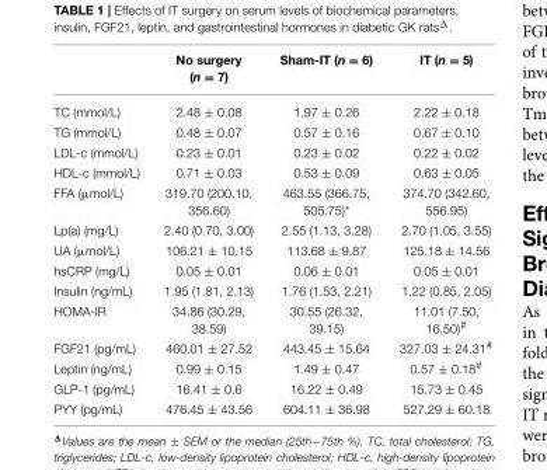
<table><thead><tr><td></td><td>No surgery (n = 7)</td><td>Sham-IT (n = 6)</td><td>IT (n = 5)</td></tr></thead><tbody><tr><td>TC (mmol/L)</td><td>2.48 ± 0.08</td><td>1.97 ± 0.26</td><td>2.22 ± 0.18</td></tr><tr><td>TG (mmol/L)</td><td>0.48 ± 0.07</td><td>0.57 ± 0.16</td><td>0.67 ± 0.10</td></tr><tr><td>LDL-c (mmol/L)</td><td>0.23 ± 0.01</td><td>0.23 ± 0.02</td><td>0.22 ± 0.02</td></tr><tr><td>HDL-c (mmol/L)</td><td>0.71 ± 0.03</td><td>0.53 ± 0.09</td><td>0.63 ± 0.05</td></tr><tr><td>FFA (µmol/L)</td><td>319.70 (200.10, 356.60)</td><td>463.55 (366.75, 505.75)*</td><td>374.70 (342.60, 556.95)</td></tr><tr><td>Lp(a) (mg/L)</td><td>2.40 (0.70, 3.00)</td><td>2.55 (1.13, 3.28)</td><td>2.70 (1.05, 3.55)</td></tr><tr><td>UA (µmol/L)</td><td>106.21 ± 10.15</td><td>113.68 ± 9.87</td><td>125.18 ± 14.56</td></tr><tr><td>hsCRP (mg/L)</td><td>0.05 ± 0.01</td><td>0.06 ± 0.01</td><td>0.05 ± 0.01</td></tr><tr><td>Insulin (ng/mL)</td><td>1.95 (1.81, 2.13)</td><td>1.76 (1.53, 2.21)</td><td>1.22 (0.85, 2.05)</td></tr><tr><td>HOMA-IR</td><td>34.86 (30.29, 38.59)</td><td>30.55 (26.32, 39.15)</td><td>11.01 (7.50, 16.50)<sup>#</sup></td></tr><tr><td>FGF21 (pg/mL)</td><td>460.01 ± 27.52</td><td>443.45 ± 15.64</td><td>327.03 ± 24.31<sup>#</sup></td></tr><tr><td>Leptin (ng/mL)</td><td>0.99 ± 0.15</td><td>1.49 ± 0.47</td><td>0.57 ± 0.18<sup>#</sup></td></tr><tr><td>GLP-1 (pg/mL)</td><td>16.41 ± 0.6</td><td>16.22 ± 0.49</td><td>15.73 ± 0.45</td></tr><tr><td>PYY (pg/mL)</td><td>476.45 ± 43.56</td><td>604.11 ± 36.98</td><td>527.29 ± 60.18</td></tr></tbody></table>